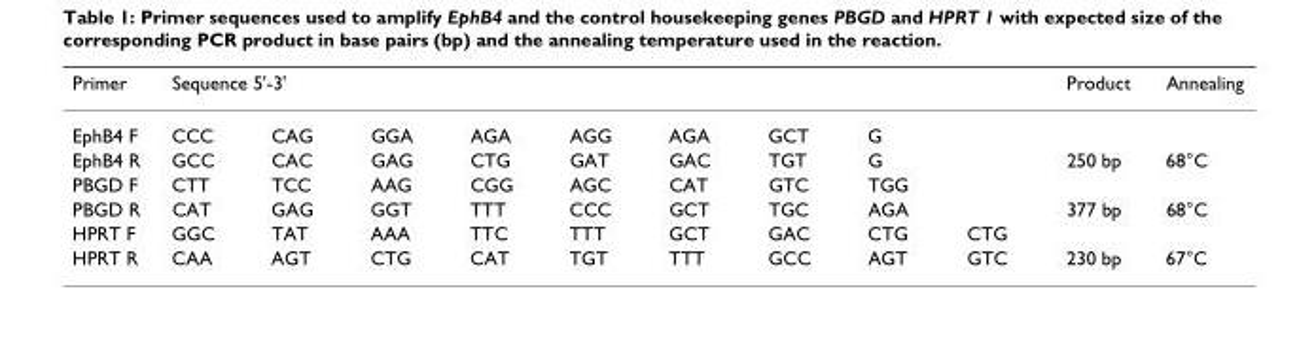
<table><thead><tr><td rowspan="2">Primer EphB4 F</td><td colspan="9">Sequence 5&#x27;-3&#x27;</td><td rowspan="2">Product</td><td rowspan="2">Annealing</td></tr><tr><td>CCC</td><td>CAG</td><td>GGA</td><td>AGA</td><td>AGG</td><td>AGA</td><td>GCT</td><td>G</td><td></td></tr></thead><tbody><tr><td>EphB4 R</td><td>GCC</td><td>CAC</td><td>GAG</td><td>CTG</td><td>GAT</td><td>GAC</td><td>TGT</td><td>G</td><td></td><td>250 bp</td><td>68°C</td></tr><tr><td>PBGD F</td><td>CTT</td><td>TCC</td><td>AAG</td><td>CGG</td><td>AGC</td><td>CAT</td><td>GTC</td><td>TGG</td><td></td><td></td><td></td></tr><tr><td>PBGD R</td><td>CAT</td><td>GAG</td><td>GGT</td><td>TTT</td><td>CCC</td><td>GCT</td><td>TGC</td><td>AGA</td><td></td><td>377 bp</td><td>68°C</td></tr><tr><td>HPRT F</td><td>GGC</td><td>TAT</td><td>AAA</td><td>TTC</td><td>TTT</td><td>GCT</td><td>GAC</td><td>CTG</td><td>CTG</td><td></td><td></td></tr><tr><td>HPRT R</td><td>CAA</td><td>AGT</td><td>CTG</td><td>CAT</td><td>TGT</td><td>TTT</td><td>GCC</td><td>AGT</td><td>GTC</td><td>230 bp</td><td>67°C</td></tr></tbody></table>